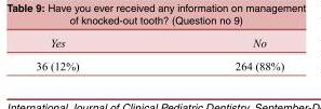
<table><tbody><tr><td>Yes</td><td>No</td></tr><tr><td>36 (12%)</td><td>264 (88%)</td></tr></tbody></table>